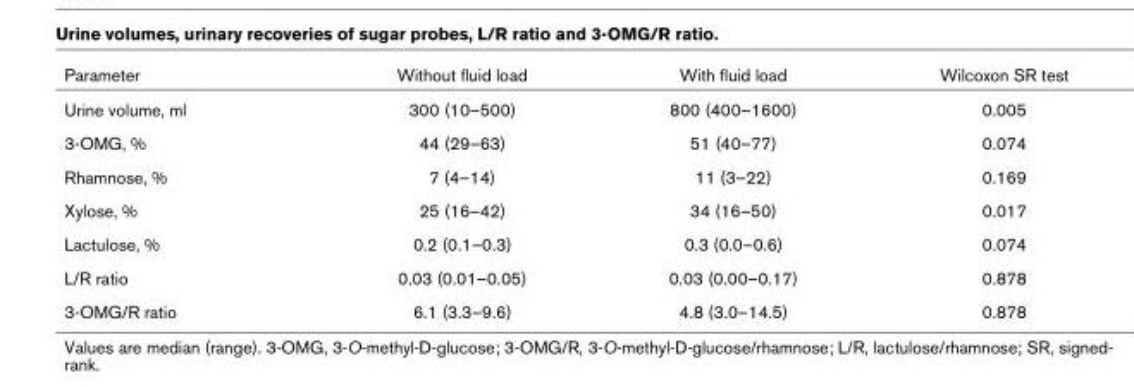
<table><thead><tr><td>Parameter</td><td>Without fluid load</td><td>With fluid load</td><td>Wilcoxon SR test</td></tr></thead><tbody><tr><td>Urine volume, ml</td><td>300 (10–500)</td><td>800 (400–1600)</td><td>0.005</td></tr><tr><td>3-OMG, %</td><td>44 (29–63)</td><td>51 (40–77)</td><td>0.074</td></tr><tr><td>Rhamnose, %</td><td>7 (4–14)</td><td>11 (3–22)</td><td>0.169</td></tr><tr><td>Xylose, %</td><td>25 (16–42)</td><td>34 (16–50)</td><td>0.017</td></tr><tr><td>Lactulose, %</td><td>0.2 (0.1–0.3)</td><td>0.3 (0.0–0.6)</td><td>0.074</td></tr><tr><td>L/R ratio</td><td>0.03 (0.01–0.05)</td><td>0.03 (0.00–0.17)</td><td>0.878</td></tr><tr><td>3-OMG/R ratio</td><td>6.1 (3.3–9.6)</td><td>4.8 (3.0–14.5)</td><td>0.878</td></tr></tbody></table>